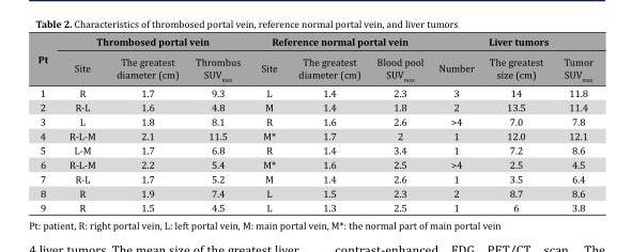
<table><thead><tr><td rowspan="2">Pt</td><td colspan="3">Thrombosed portal vein</td><td colspan="3">Reference normal portal vein</td><td colspan="3">Liver tumors</td></tr><tr><td>Site</td><td>The greatest diameter (cm)</td><td>Thrombus SUV<sub>max</sub></td><td>Site</td><td>The greatest diameter (cm)</td><td>Blood pool SUV<sub>max</sub></td><td>Number</td><td>The greatest size (cm)</td><td>Tumor SUV<sub>max</sub></td></tr></thead><tbody><tr><td>1</td><td>R</td><td>1.7</td><td>9.3</td><td>L</td><td>1.4</td><td>2.3</td><td>3</td><td>14</td><td>11.8</td></tr><tr><td>2</td><td>R-L</td><td>1.6</td><td>4.8</td><td>M</td><td>1.4</td><td>1.8</td><td>2</td><td>13.5</td><td>11.4</td></tr><tr><td>3</td><td>L</td><td>1.8</td><td>8.1</td><td>R</td><td>1.6</td><td>2.6</td><td>&gt;4</td><td>7.0</td><td>7.8</td></tr><tr><td>4</td><td>R-L-M</td><td>2.1</td><td>11.5</td><td>M*</td><td>1.7</td><td>2</td><td>1</td><td>12.0</td><td>12.1</td></tr><tr><td>5</td><td>L-M</td><td>1.7</td><td>6.8</td><td>R</td><td>1.4</td><td>3.4</td><td>1</td><td>7.2</td><td>8.6</td></tr><tr><td>6</td><td>R-L-M</td><td>2.2</td><td>5.4</td><td>M*</td><td>1.6</td><td>2.5</td><td>&gt;4</td><td>2.5</td><td>4.5</td></tr><tr><td>7</td><td>R-L</td><td>1.7</td><td>5.2</td><td>M</td><td>1.4</td><td>2.6</td><td>1</td><td>3.5</td><td>6.4</td></tr><tr><td>8</td><td>R</td><td>1.9</td><td>7.4</td><td>L</td><td>1.5</td><td>2.3</td><td>2</td><td>8.7</td><td>8.6</td></tr><tr><td>9</td><td>R</td><td>1.5</td><td>4.5</td><td>L</td><td>1.3</td><td>2.5</td><td>1</td><td>6</td><td>3.8</td></tr></tbody></table>